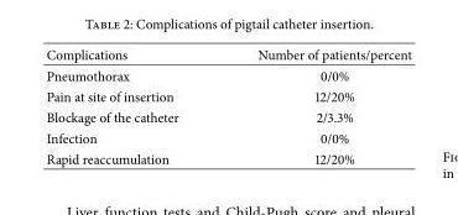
<table><thead><tr><td>Complications</td><td>Number of patients/percent</td></tr></thead><tbody><tr><td>Pneumothorax</td><td>0/0%</td></tr><tr><td>Pain at site of insertion</td><td>12/20%</td></tr><tr><td>Blockage of the catheter</td><td>2/3.3%</td></tr><tr><td>Infection</td><td>0/0%</td></tr><tr><td>Rapid reaccumulation</td><td>12/20%</td></tr></tbody></table>